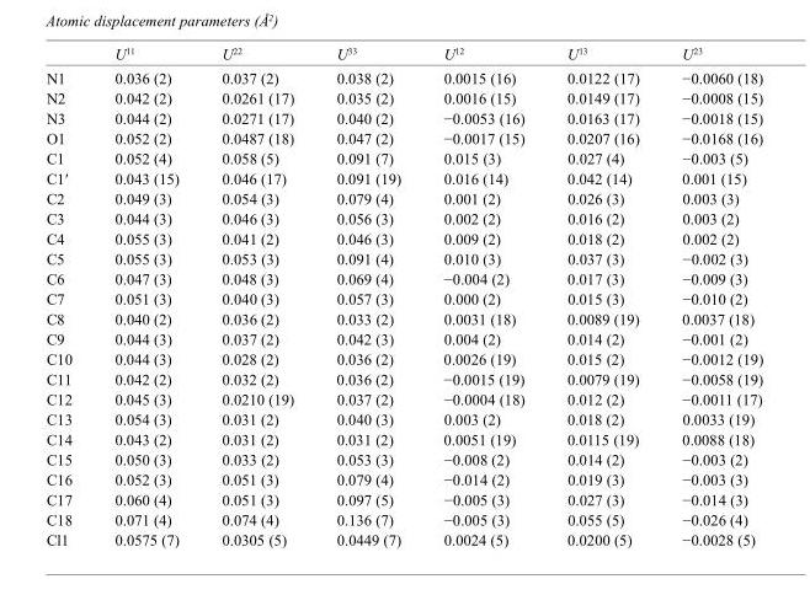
<table><thead><tr><td></td><td>U<sup>11</sup></td><td>U<sup>22</sup></td><td>U<sup>33</sup></td><td>U<sup>12</sup></td><td>U<sup>13</sup></td><td>U<sup>23</sup></td></tr></thead><tbody><tr><td>N1</td><td>0.036 (2)</td><td>0.037 (2)</td><td>0.038 (2)</td><td>0.0015 (16)</td><td>0.0122 (17)</td><td>−0.0060 (18)</td></tr><tr><td>N2</td><td>0.042 (2)</td><td>0.0261 (17)</td><td>0.035 (2)</td><td>0.0016 (15)</td><td>0.0149 (17)</td><td>−0.0008 (15)</td></tr><tr><td>N3</td><td>0.044 (2)</td><td>0.0271 (17)</td><td>0.040 (2)</td><td>−0.0053 (16)</td><td>0.0163 (17)</td><td>−0.0018 (15)</td></tr><tr><td>O1</td><td>0.052 (2)</td><td>0.0487 (18)</td><td>0.047 (2)</td><td>−0.0017 (15)</td><td>0.0207 (16)</td><td>−0.0168 (16)</td></tr><tr><td>C1</td><td>0.052 (4)</td><td>0.058 (5)</td><td>0.091 (7)</td><td>0.015 (3)</td><td>0.027 (4)</td><td>−0.003 (5)</td></tr><tr><td>C1′</td><td>0.043 (15)</td><td>0.046 (17)</td><td>0.091 (19)</td><td>0.016 (14)</td><td>0.042 (14)</td><td>0.001 (15)</td></tr><tr><td>C2</td><td>0.049 (3)</td><td>0.054 (3)</td><td>0.079 (4)</td><td>0.001 (2)</td><td>0.026 (3)</td><td>0.003 (3)</td></tr><tr><td>C3</td><td>0.044 (3)</td><td>0.046 (3)</td><td>0.056 (3)</td><td>0.002 (2)</td><td>0.016 (2)</td><td>0.003 (2)</td></tr><tr><td>C4</td><td>0.055 (3)</td><td>0.041 (2)</td><td>0.046 (3)</td><td>0.009 (2)</td><td>0.018 (2)</td><td>0.002 (2)</td></tr><tr><td>C5</td><td>0.055 (3)</td><td>0.053 (3)</td><td>0.091 (4)</td><td>0.010 (3)</td><td>0.037 (3)</td><td>−0.002 (3)</td></tr><tr><td>C6</td><td>0.047 (3)</td><td>0.048 (3)</td><td>0.069 (4)</td><td>−0.004 (2)</td><td>0.017 (3)</td><td>−0.009 (3)</td></tr><tr><td>C7</td><td>0.051 (3)</td><td>0.040 (3)</td><td>0.057 (3)</td><td>0.000 (2)</td><td>0.015 (3)</td><td>−0.010 (2)</td></tr><tr><td>C8</td><td>0.040 (2)</td><td>0.036 (2)</td><td>0.033 (2)</td><td>0.0031 (18)</td><td>0.0089 (19)</td><td>0.0037 (18)</td></tr><tr><td>C9</td><td>0.044 (3)</td><td>0.037 (2)</td><td>0.042 (3)</td><td>0.004 (2)</td><td>0.014 (2)</td><td>−0.001 (2)</td></tr><tr><td>C10</td><td>0.044 (3)</td><td>0.028 (2)</td><td>0.036 (2)</td><td>0.0026 (19)</td><td>0.015 (2)</td><td>−0.0012 (19)</td></tr><tr><td>C11</td><td>0.042 (2)</td><td>0.032 (2)</td><td>0.036 (2)</td><td>−0.0015 (19)</td><td>0.0079 (19)</td><td>−0.0058 (19)</td></tr><tr><td>C12</td><td>0.045 (3)</td><td>0.0210 (19)</td><td>0.037 (2)</td><td>−0.0004 (18)</td><td>0.012 (2)</td><td>−0.0011 (17)</td></tr><tr><td>C13</td><td>0.054 (3)</td><td>0.031 (2)</td><td>0.040 (3)</td><td>0.003 (2)</td><td>0.018 (2)</td><td>0.0033 (19)</td></tr><tr><td>C14</td><td>0.043 (2)</td><td>0.031 (2)</td><td>0.031 (2)</td><td>0.0051 (19)</td><td>0.0115 (19)</td><td>0.0088 (18)</td></tr><tr><td>C15</td><td>0.050 (3)</td><td>0.033 (2)</td><td>0.053 (3)</td><td>−0.008 (2)</td><td>0.014 (2)</td><td>−0.003 (2)</td></tr><tr><td>C16</td><td>0.052 (3)</td><td>0.051 (3)</td><td>0.079 (4)</td><td>−0.014 (2)</td><td>0.019 (3)</td><td>−0.003 (3)</td></tr><tr><td>C17</td><td>0.060 (4)</td><td>0.051 (3)</td><td>0.097 (5)</td><td>−0.005 (3)</td><td>0.027 (3)</td><td>−0.014 (3)</td></tr><tr><td>C18</td><td>0.071 (4)</td><td>0.074 (4)</td><td>0.136 (7)</td><td>−0.005 (3)</td><td>0.055 (5)</td><td>−0.026 (4)</td></tr><tr><td>Cl1</td><td>0.0575 (7)</td><td>0.0305 (5)</td><td>0.0449 (7)</td><td>0.0024 (5)</td><td>0.0200 (5)</td><td>−0.0028 (5)</td></tr></tbody></table>